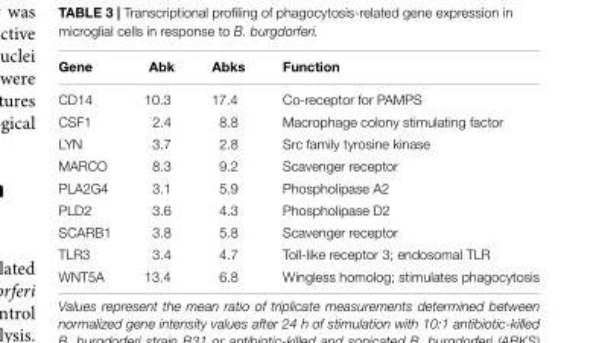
<table><thead><tr><td>Gene</td><td>Abk</td><td>Abks</td><td>Function</td></tr></thead><tbody><tr><td>CD14</td><td>10.3</td><td>17.4</td><td>Co-receptor for PAMPS</td></tr><tr><td>CSF1</td><td>2.4</td><td>8.8</td><td>Macrophage colony stimulating factor</td></tr><tr><td>LYN</td><td>3.7</td><td>2.8</td><td>Src family tyrosine kinase</td></tr><tr><td>MARCO</td><td>8.3</td><td>9.2</td><td>Scavenger receptor</td></tr><tr><td>PLA2G4</td><td>3.1</td><td>5.9</td><td>Phospholipase A2</td></tr><tr><td>PLD2</td><td>3.6</td><td>4.3</td><td>Phospholipase D2</td></tr><tr><td>SCARB1</td><td>3.8</td><td>5.8</td><td>Scavenger receptor</td></tr><tr><td>TLR3</td><td>3.4</td><td>4.7</td><td>Toll-like receptor 3; endosomal TLR</td></tr><tr><td>WNT5A</td><td>13.4</td><td>6.8</td><td>Wingless homolog; stimulates phagocytosis</td></tr></tbody></table>